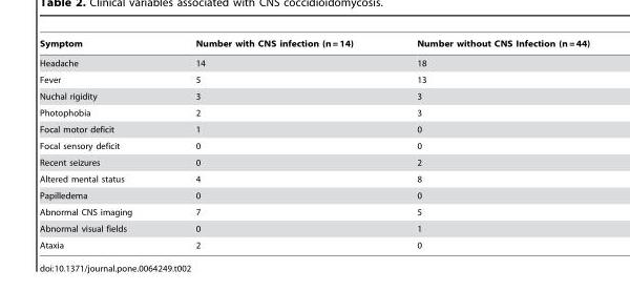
<table><thead><tr><td>Symptom</td><td>Number with CNS infection (n = 14)</td><td>Number without CNS Infection (n = 44)</td></tr></thead><tbody><tr><td>Headache</td><td>14</td><td>18</td></tr><tr><td>Fever</td><td>5</td><td>13</td></tr><tr><td>Nuchal rigidity</td><td>3</td><td>3</td></tr><tr><td>Photophobia</td><td>2</td><td>3</td></tr><tr><td>Focal motor deficit</td><td>1</td><td>0</td></tr><tr><td>Focal sensory deficit</td><td>0</td><td>0</td></tr><tr><td>Recent seizures</td><td>0</td><td>2</td></tr><tr><td>Altered mental status</td><td>4</td><td>8</td></tr><tr><td>Papilledema</td><td>0</td><td>0</td></tr><tr><td>Abnormal CNS imaging</td><td>7</td><td>5</td></tr><tr><td>Abnormal visual fields</td><td>0</td><td>1</td></tr><tr><td>Ataxia</td><td>2</td><td>0</td></tr></tbody></table>